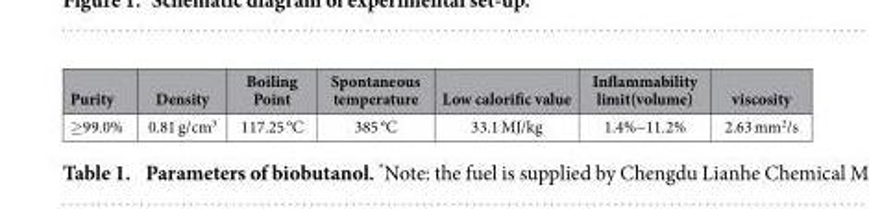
<table><thead><tr><td>Purity</td><td>Density</td><td>Boiling Point</td><td>Spontaneous temperature</td><td>Low calorific value</td><td>Inflammability limit(volume)</td><td>viscosity</td></tr></thead><tbody><tr><td>≥ 99.0%</td><td>0.81 g/cm<sup>3</sup></td><td>117.25 °C</td><td>385 °C</td><td>33.1 MJ/kg</td><td>1.4%~11.2%</td><td>2.63 mm<sup>2</sup>/s</td></tr></tbody></table>